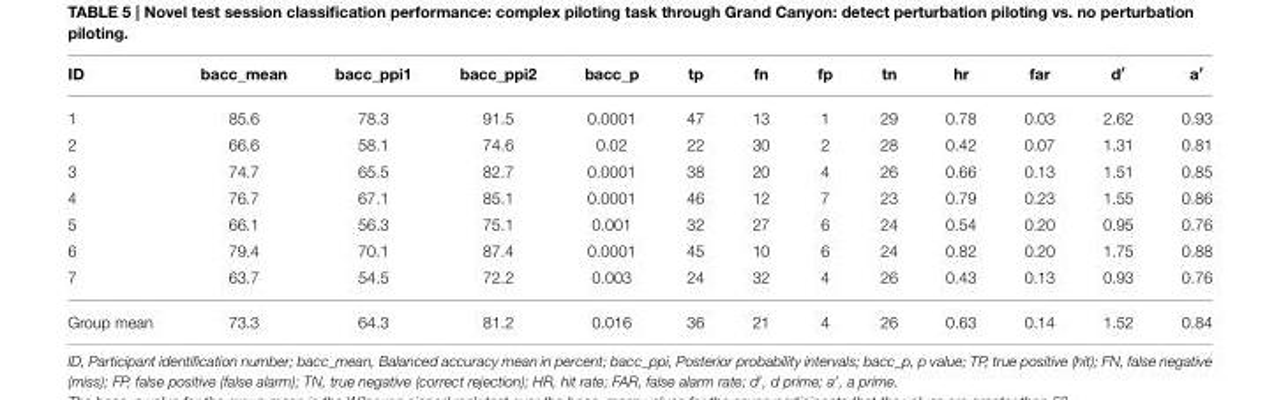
<table><thead><tr><td>ID</td><td>bacc_mean</td><td>bacc_ppi1</td><td>bacc_ppi2</td><td>bacc_p</td><td>tp</td><td>fn</td><td>fp</td><td>tn</td><td>hr</td><td>far</td><td>d′</td><td>a′</td></tr></thead><tbody><tr><td>1</td><td>85.6</td><td>78.3</td><td>91.5</td><td>0.0001</td><td>47</td><td>13</td><td>1</td><td>29</td><td>0.78</td><td>0.03</td><td>2.62</td><td>0.93</td></tr><tr><td>2</td><td>66.6</td><td>58.1</td><td>74.6</td><td>0.02</td><td>22</td><td>30</td><td>2</td><td>28</td><td>0.42</td><td>0.07</td><td>1.31</td><td>0.81</td></tr><tr><td>3</td><td>74.7</td><td>65.5</td><td>82.7</td><td>0.0001</td><td>38</td><td>20</td><td>4</td><td>26</td><td>0.66</td><td>0.13</td><td>1.51</td><td>0.85</td></tr><tr><td>4</td><td>76.7</td><td>67.1</td><td>85.1</td><td>0.0001</td><td>46</td><td>12</td><td>7</td><td>23</td><td>0.79</td><td>0.23</td><td>1.55</td><td>0.86</td></tr><tr><td>5</td><td>66.1</td><td>56.3</td><td>75.1</td><td>0.001</td><td>32</td><td>27</td><td>6</td><td>24</td><td>0.54</td><td>0.20</td><td>0.95</td><td>0.76</td></tr><tr><td>6</td><td>79.4</td><td>70.1</td><td>87.4</td><td>0.0001</td><td>45</td><td>10</td><td>6</td><td>24</td><td>0.82</td><td>0.20</td><td>1.75</td><td>0.88</td></tr><tr><td>7</td><td>63.7</td><td>54.5</td><td>72.2</td><td>0.003</td><td>24</td><td>32</td><td>4</td><td>26</td><td>0.43</td><td>0.13</td><td>0.93</td><td>0.76</td></tr><tr><td>Group mean</td><td>73.3</td><td>64.3</td><td>81.2</td><td>0.016</td><td>36</td><td>21</td><td>4</td><td>26</td><td>0.63</td><td>0.14</td><td>1.52</td><td>0.84</td></tr></tbody></table>